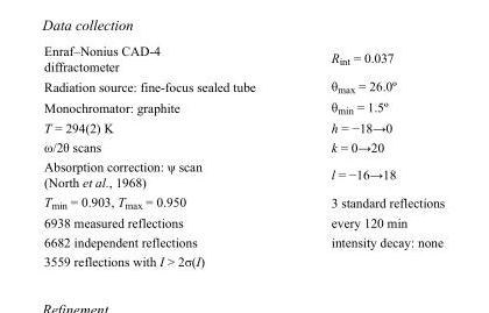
<table><tbody><tr><td>Enraf–Nonius CAD-4 diffractometer</td><td>R<sub>int</sub> = 0.037</td></tr><tr><td>Radiation source: fine-focus sealed tube</td><td>θ<sub>max</sub> = 26.0º</td></tr><tr><td>Monochromator: graphite</td><td>θ<sub>min</sub> = 1.5º</td></tr><tr><td>T = 294(2) K</td><td>h = −18→0</td></tr><tr><td>ω/2θ scans</td><td>k = 0→20</td></tr><tr><td>Absorption correction: ψ scan (North et al., 1968)</td><td>l = −16→18</td></tr><tr><td>T<sub>min</sub> = 0.903, T<sub>max</sub> = 0.950</td><td>3 standard reflections</td></tr><tr><td>6938 measured reflections</td><td>every 120 min</td></tr><tr><td>6682 independent reflections</td><td>intensity decay: none</td></tr><tr><td>3559 reflections with I &gt; 2σ(I)</td><td></td></tr></tbody></table>